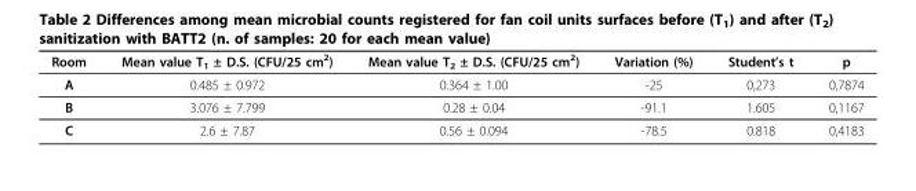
<table><thead><tr><td>Room</td><td>Mean value T<sub>1</sub> ± D.S. (CFU/25 cm<sup>2</sup>)</td><td>Mean value T<sub>2</sub> ± D.S. (CFU/25 cm<sup>2</sup>)</td><td>Variation (%)</td><td>Student’s t</td><td>p</td></tr></thead><tbody><tr><td>A</td><td>0.485 ± 0.972</td><td>0.364 ± 1.00</td><td>-25</td><td>0,273</td><td>0,7874</td></tr><tr><td>B</td><td>3.076 ± 7.799</td><td>0.28 ± 0.04</td><td>-91.1</td><td>1.605</td><td>0,1167</td></tr><tr><td>C</td><td>2.6 ± 7.87</td><td>0.56 ± 0.094</td><td>-78.5</td><td>0.818</td><td>0,4183</td></tr></tbody></table>